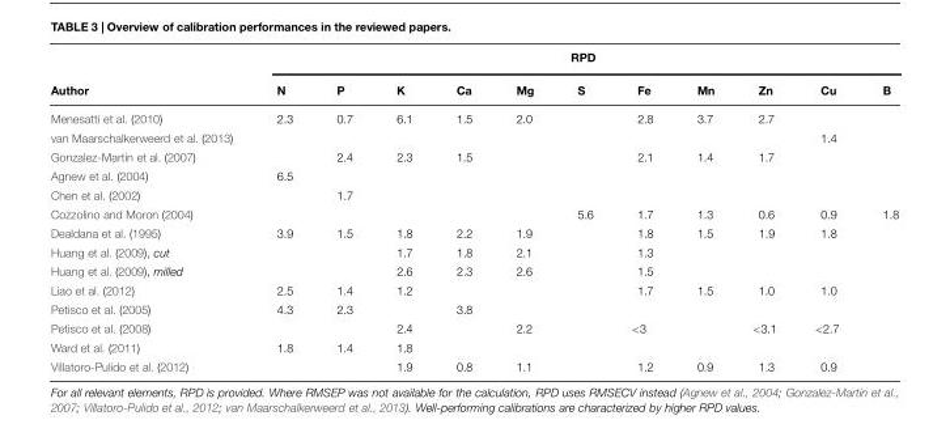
<table><thead><tr><td rowspan="2">Author</td><td colspan="11">RPD</td></tr><tr><td>N</td><td>P</td><td>K</td><td>Ca</td><td>Mg</td><td>S</td><td>Fe</td><td>Mn</td><td>Zn</td><td>Cu</td><td>B</td></tr></thead><tbody><tr><td>Menesatti et al. (2010)</td><td>2.3</td><td>0.7</td><td>6.1</td><td>1.5</td><td>2.0</td><td></td><td>2.8</td><td>3.7</td><td>2.7</td><td></td><td></td></tr><tr><td>van Maarschalkerweerd et al. (2013)</td><td></td><td></td><td></td><td></td><td></td><td></td><td></td><td></td><td></td><td>1.4</td><td></td></tr><tr><td>Gonzalez-Martin et al. (2007)</td><td></td><td>2.4</td><td>2.3</td><td>1.5</td><td></td><td></td><td>2.1</td><td>1.4</td><td>1.7</td><td></td><td></td></tr><tr><td>Agnew et al. (2004)</td><td>6.5</td><td></td><td></td><td></td><td></td><td></td><td></td><td></td><td></td><td></td><td></td></tr><tr><td>Chen et al. (2002)</td><td></td><td>1.7</td><td></td><td></td><td></td><td></td><td></td><td></td><td></td><td></td><td></td></tr><tr><td>Cozzolino and Moron (2004)</td><td></td><td></td><td></td><td></td><td></td><td>5.6</td><td>1.7</td><td>1.3</td><td>0.6</td><td>0.9</td><td>1.8</td></tr><tr><td>Dealdana et al. (1995)</td><td>3.9</td><td>1.5</td><td>1.8</td><td>2.2</td><td>1.9</td><td></td><td>1.8</td><td>1.5</td><td>1.9</td><td>1.8</td><td></td></tr><tr><td>Huang et al. (2009), cut</td><td></td><td></td><td>1.7</td><td>1.8</td><td>2.1</td><td></td><td>1.3</td><td></td><td></td><td></td><td></td></tr><tr><td>Huang et al. (2009), milled</td><td></td><td></td><td>2.6</td><td>2.3</td><td>2.6</td><td></td><td>1.5</td><td></td><td></td><td></td><td></td></tr><tr><td>Liao et al. (2012)</td><td>2.5</td><td>1.4</td><td>1.2</td><td></td><td></td><td></td><td>1.7</td><td>1.5</td><td>1.0</td><td>1.0</td><td></td></tr><tr><td>Petisco et al. (2005)</td><td>4.3</td><td>2.3</td><td></td><td>3.8</td><td></td><td></td><td></td><td></td><td></td><td></td><td></td></tr><tr><td>Petisco et al. (2008)</td><td></td><td></td><td>2.4</td><td></td><td>2.2</td><td></td><td>&lt;3</td><td></td><td>&lt;3.1</td><td>&lt;2.7</td><td></td></tr><tr><td>Ward et al. (2011)</td><td>1.8</td><td>1.4</td><td>1.8</td><td></td><td></td><td></td><td></td><td></td><td></td><td></td><td></td></tr><tr><td>Villatoro-Pulido et al. (2012)</td><td></td><td></td><td>1.9</td><td>0.8</td><td>1.1</td><td></td><td>1.2</td><td>0.9</td><td>1.3</td><td>0.9</td><td></td></tr></tbody></table>